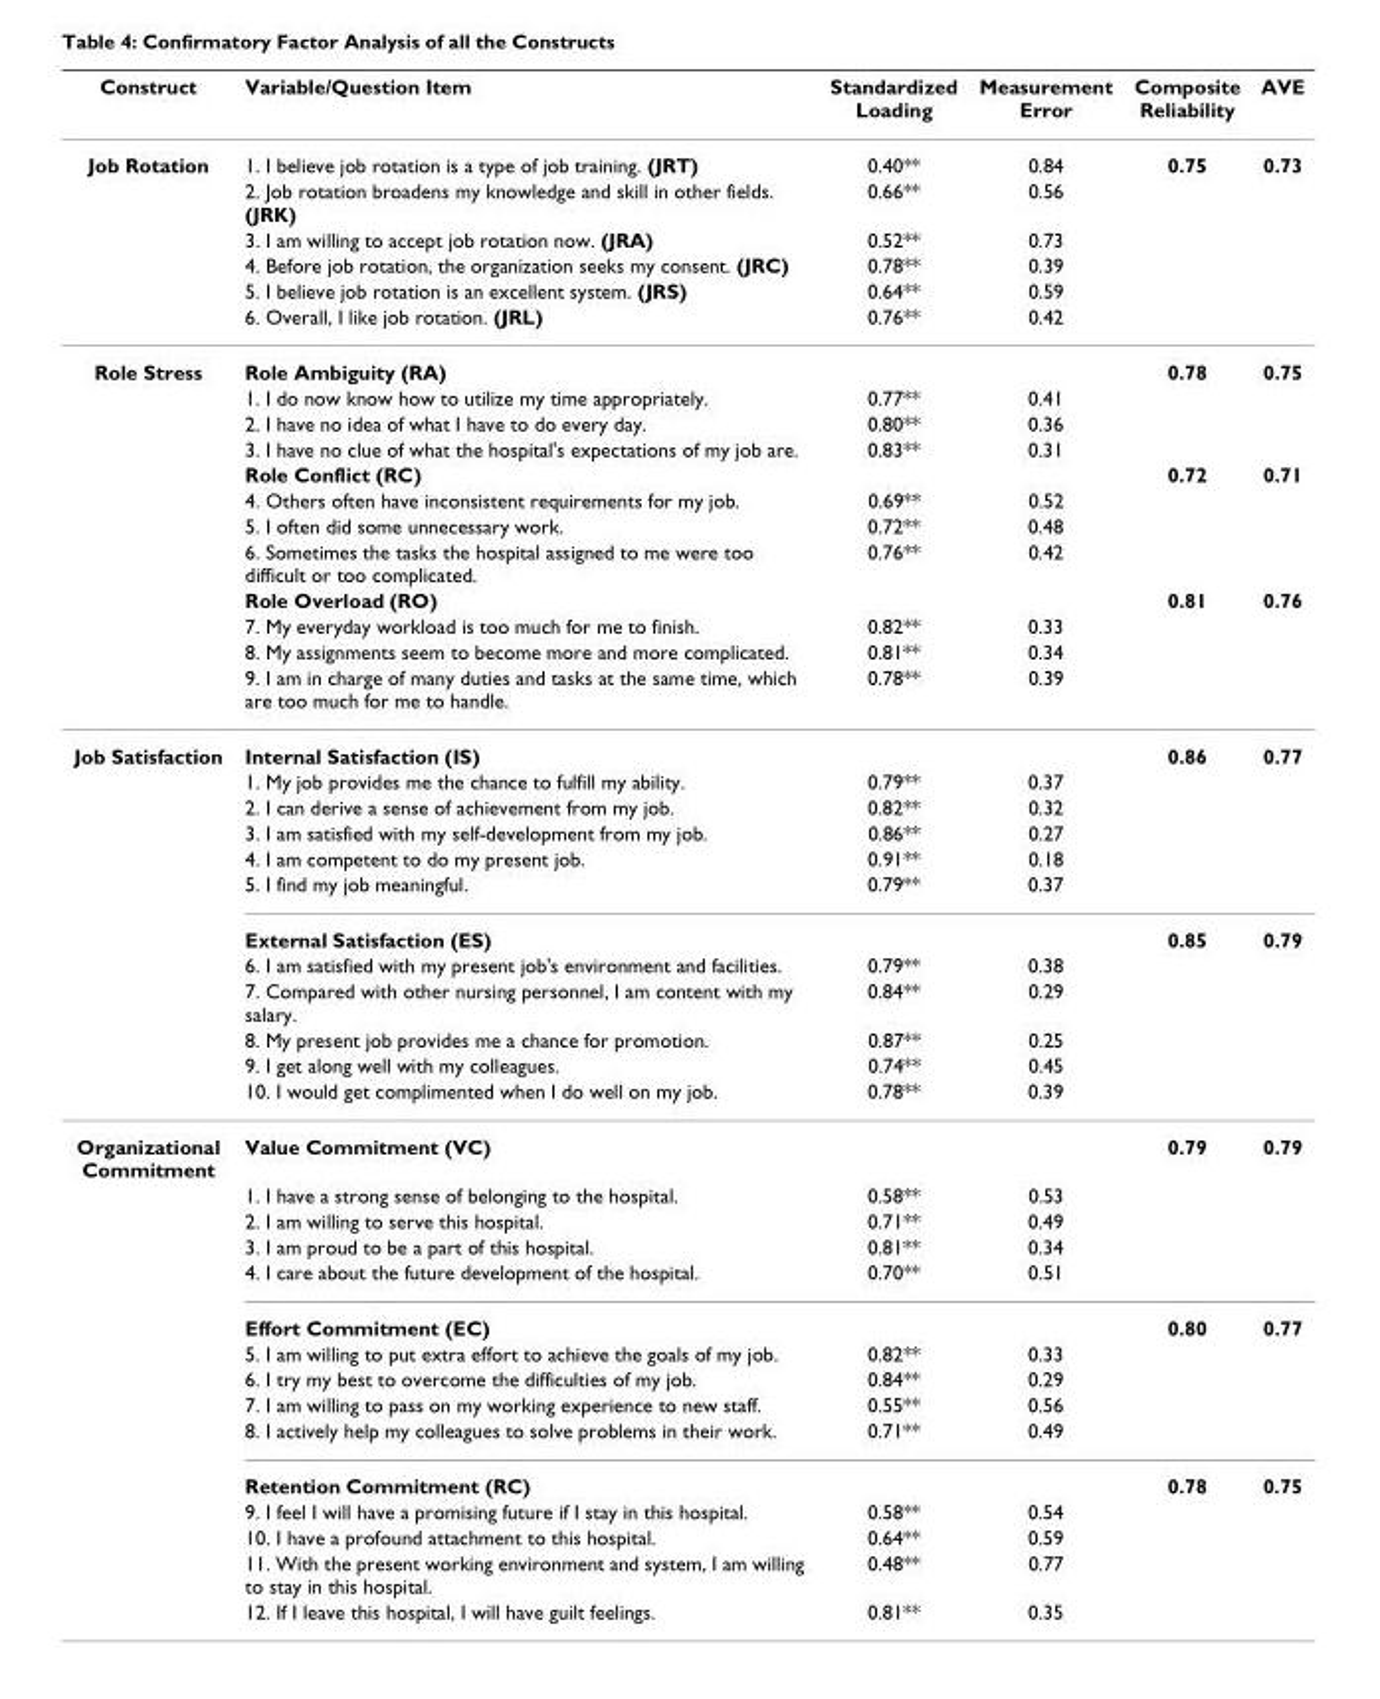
<table><thead><tr><td>Construct</td><td>Variable/Question Item</td><td>Standardized Loading</td><td>Measurement Error</td><td>Composite Reliability</td><td>AVE</td></tr></thead><tbody><tr><td rowspan="6">Job Rotation</td><td>1. I believe job rotation is a type of job training. (JRT)</td><td>0.40**</td><td>0.84</td><td>0.75</td><td>0.73</td></tr><tr><td>2. Job rotation broadens my knowledge and skill in other fields. (JRK)</td><td>0.66**</td><td>0.56</td><td></td><td></td></tr><tr><td>3. I am willing to accept job rotation now. (JRA)</td><td>0.52**</td><td>0.73</td><td></td><td></td></tr><tr><td>4. Before job rotation, the organization seeks my consent. (JRC)</td><td>0.78**</td><td>0.39</td><td></td><td></td></tr><tr><td>5. I believe job rotation is an excellent system. (JRS)</td><td>0.64**</td><td>0.59</td><td></td><td></td></tr><tr><td>6. Overall, I like job rotation. (JRL)</td><td>0.76**</td><td>0.42</td><td></td><td></td></tr><tr><td rowspan="12">Role Stress</td><td>Role Ambiguity (RA)</td><td></td><td></td><td>0.78</td><td>0.75</td></tr><tr><td>1. I do now know how to utilize my time appropriately.</td><td>0.77**</td><td>0.41</td><td></td><td></td></tr><tr><td>2. I have no idea of what I have to do every day.</td><td>0.80**</td><td>0.36</td><td></td><td></td></tr><tr><td>3. I have no clue of what the hospital&#x27;s expectations of my job are.</td><td>0.83**</td><td>0.31</td><td></td><td></td></tr><tr><td>Role Conflict (RC)</td><td></td><td></td><td>0.72</td><td>0.71</td></tr><tr><td>4. Others often have inconsistent requirements for my job.</td><td>0.69**</td><td>0.52</td><td></td><td></td></tr><tr><td>5. I often did some unnecessary work.</td><td>0.72**</td><td>0.48</td><td></td><td></td></tr><tr><td>6. Sometimes the tasks the hospital assigned to me were too difficult or too complicated.</td><td>0.76**</td><td>0.42</td><td></td><td></td></tr><tr><td>Role Overload (RO)</td><td></td><td></td><td>0.81</td><td>0.76</td></tr><tr><td>7. My everyday workload is too much for me to finish.</td><td>0.82**</td><td>0.33</td><td></td><td></td></tr><tr><td>8. My assignments seem to become more and more complicated.</td><td>0.81**</td><td>0.34</td><td></td><td></td></tr><tr><td>9. I am in charge of many duties and tasks at the same time, which are too much for me to handle.</td><td>0.78**</td><td>0.39</td><td></td><td></td></tr><tr><td rowspan="12">Job Satisfaction</td><td>Internal Satisfaction (IS)</td><td></td><td></td><td>0.86</td><td>0.77</td></tr><tr><td>1. My job provides me the chance to fulfill my ability.</td><td>0.79**</td><td>0.37</td><td></td><td></td></tr><tr><td>2. I can derive a sense of achievement from my job.</td><td>0.82**</td><td>0.32</td><td></td><td></td></tr><tr><td>3. I am satisfied with my self-development from my job.</td><td>0.86**</td><td>0.27</td><td></td><td></td></tr><tr><td>4. I am competent to do my present job.</td><td>0.91**</td><td>0.18</td><td></td><td></td></tr><tr><td>5. I find my job meaningful.</td><td>0.79**</td><td>0.37</td><td></td><td></td></tr><tr><td>External Satisfaction (ES)</td><td></td><td></td><td>0.85</td><td>0.79</td></tr><tr><td>6. I am satisfied with my present job&#x27;s environment and facilities.</td><td>0.79**</td><td>0.38</td><td></td><td></td></tr><tr><td>7. Compared with other nursing personnel, I am content with my salary.</td><td>0.84**</td><td>0.29</td><td></td><td></td></tr><tr><td>8. My present job provides me a chance for promotion.</td><td>0.87**</td><td>0.25</td><td></td><td></td></tr><tr><td>9. I get along well with my colleagues.</td><td>0.74**</td><td>0.45</td><td></td><td></td></tr><tr><td>10. I would get complimented when I do well on my job.</td><td>0.78**</td><td>0.39</td><td></td><td></td></tr><tr><td rowspan="15">Organizational Commitment</td><td>Value Commitment (VC)</td><td></td><td></td><td>0.79</td><td>0.79</td></tr><tr><td>1. I have a strong sense of belonging to the hospital.</td><td>0.58**</td><td>0.53</td><td></td><td></td></tr><tr><td>2. I am willing to serve this hospital.</td><td>0.71**</td><td>0.49</td><td></td><td></td></tr><tr><td>3. I am proud to be a part of this hospital.</td><td>0.81**</td><td>0.34</td><td></td><td></td></tr><tr><td>4. I care about the future development of the hospital.</td><td>0.70**</td><td>0.51</td><td></td><td></td></tr><tr><td>Effort Commitment (EC)</td><td></td><td></td><td>0.80</td><td>0.77</td></tr><tr><td>5. I am willing to put extra effort to achieve the goals of my job.</td><td>0.82**</td><td>0.33</td><td></td><td></td></tr><tr><td>6. I try my best to overcome the difficulties of my job.</td><td>0.84**</td><td>0.29</td><td></td><td></td></tr><tr><td>7. I am willing to pass on my working experience to new staff.</td><td>0.55**</td><td>0.56</td><td></td><td></td></tr><tr><td>8. I actively help my colleagues to solve problems in their work.</td><td>0.71**</td><td>0.49</td><td></td><td></td></tr><tr><td>Retention Commitment (RC)</td><td></td><td></td><td>0.78</td><td>0.75</td></tr><tr><td>9. I feel I will have a promising future if I stay in this hospital.</td><td>0.58**</td><td>0.54</td><td></td><td></td></tr><tr><td>10. I have a profound attachment to this hospital.</td><td>0.64**</td><td>0.59</td><td></td><td></td></tr><tr><td>11. With the present working environment and system, I am willing to stay in this hospital.</td><td>0.48**</td><td>0.77</td><td></td><td></td></tr><tr><td>12. If I leave this hospital, I will have guilt feelings.</td><td>0.81**</td><td>0.35</td><td></td><td></td></tr></tbody></table>